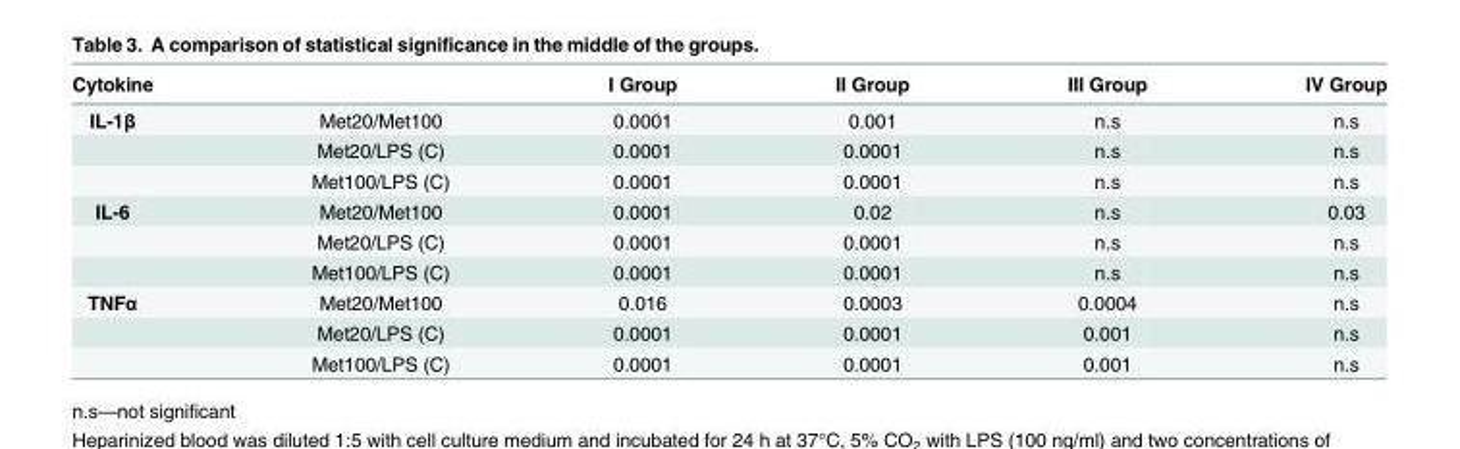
<table><thead><tr><td>Cytokine</td><td></td><td>I Group</td><td>II Group</td><td>III Group</td><td>IV Group</td></tr></thead><tbody><tr><td rowspan="3">IL-1β</td><td>Met20/Met100</td><td>0.0001</td><td>0.001</td><td>n.s</td><td>n.s</td></tr><tr><td>Met20/LPS (C)</td><td>0.0001</td><td>0.0001</td><td>n.s</td><td>n.s</td></tr><tr><td>Met100/LPS (C)</td><td>0.0001</td><td>0.0001</td><td>n.s</td><td>n.s</td></tr><tr><td rowspan="3">IL-6</td><td>Met20/Met100</td><td>0.0001</td><td>0.02</td><td>n.s</td><td>0.03</td></tr><tr><td>Met20/LPS (C)</td><td>0.0001</td><td>0.0001</td><td>n.s</td><td>n.s</td></tr><tr><td>Met100/LPS (C)</td><td>0.0001</td><td>0.0001</td><td>n.s</td><td>n.s</td></tr><tr><td rowspan="3">TNFα</td><td>Met20/Met100</td><td>0.016</td><td>0.0003</td><td>0.0004</td><td>n.s</td></tr><tr><td>Met20/LPS (C)</td><td>0.0001</td><td>0.0001</td><td>0.001</td><td>n.s</td></tr><tr><td>Met100/LPS (C)</td><td>0.0001</td><td>0.0001</td><td>0.001</td><td>n.s</td></tr></tbody></table>